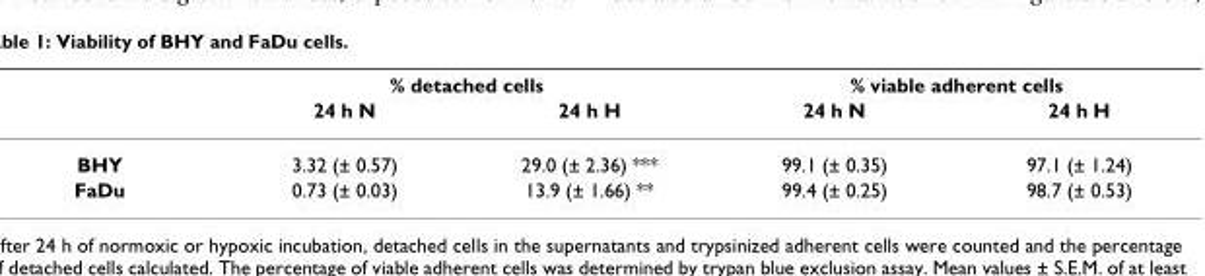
<table><thead><tr><td rowspan="2"></td><td colspan="2">% detached cells</td><td colspan="2">% viable adherent cells</td></tr><tr><td>24 h N</td><td>24 h H</td><td>24 h N</td><td>24 h H</td></tr></thead><tbody><tr><td>BHY</td><td>3.32 (± 0.57)</td><td>29.0 (± 2.36) ***</td><td>99.1 (± 0.35)</td><td>97.1 (± 1.24)</td></tr><tr><td>FaDu</td><td>0.73 (± 0.03)</td><td>13.9 (± 1.66) **</td><td>99.4 (± 0.25)</td><td>98.7 (± 0.53)</td></tr></tbody></table>